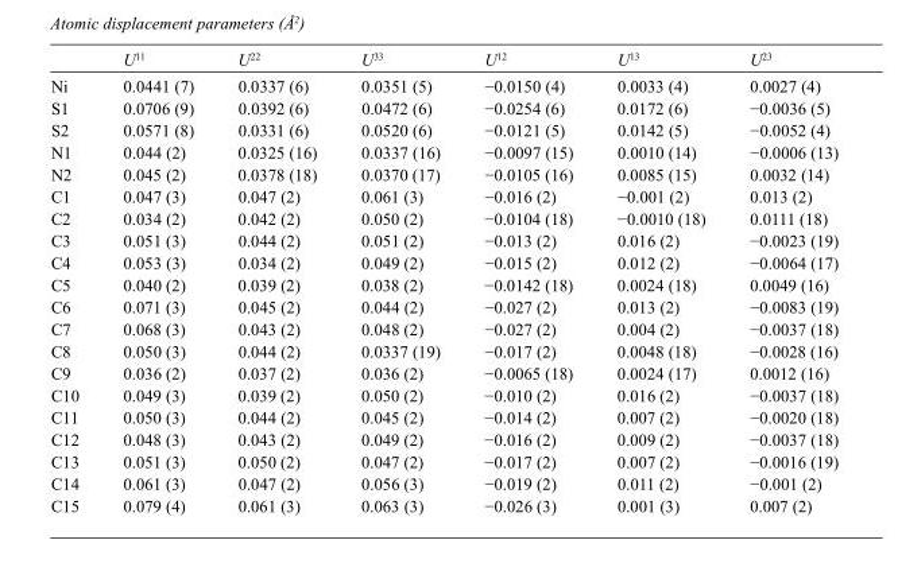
<table><thead><tr><td></td><td>U<sup>11</sup></td><td>U<sup>22</sup></td><td>U<sup>33</sup></td><td>U<sup>12</sup></td><td>U<sup>13</sup></td><td>U<sup>23</sup></td></tr></thead><tbody><tr><td>Ni</td><td>0.0441 (7)</td><td>0.0337 (6)</td><td>0.0351 (5)</td><td>−0.0150 (4)</td><td>0.0033 (4)</td><td>0.0027 (4)</td></tr><tr><td>S1</td><td>0.0706 (9)</td><td>0.0392 (6)</td><td>0.0472 (6)</td><td>−0.0254 (6)</td><td>0.0172 (6)</td><td>−0.0036 (5)</td></tr><tr><td>S2</td><td>0.0571 (8)</td><td>0.0331 (6)</td><td>0.0520 (6)</td><td>−0.0121 (5)</td><td>0.0142 (5)</td><td>−0.0052 (4)</td></tr><tr><td>N1</td><td>0.044 (2)</td><td>0.0325 (16)</td><td>0.0337 (16)</td><td>−0.0097 (15)</td><td>0.0010 (14)</td><td>−0.0006 (13)</td></tr><tr><td>N2</td><td>0.045 (2)</td><td>0.0378 (18)</td><td>0.0370 (17)</td><td>−0.0105 (16)</td><td>0.0085 (15)</td><td>0.0032 (14)</td></tr><tr><td>C1</td><td>0.047 (3)</td><td>0.047 (2)</td><td>0.061 (3)</td><td>−0.016 (2)</td><td>−0.001 (2)</td><td>0.013 (2)</td></tr><tr><td>C2</td><td>0.034 (2)</td><td>0.042 (2)</td><td>0.050 (2)</td><td>−0.0104 (18)</td><td>−0.0010 (18)</td><td>0.0111 (18)</td></tr><tr><td>C3</td><td>0.051 (3)</td><td>0.044 (2)</td><td>0.051 (2)</td><td>−0.013 (2)</td><td>0.016 (2)</td><td>−0.0023 (19)</td></tr><tr><td>C4</td><td>0.053 (3)</td><td>0.034 (2)</td><td>0.049 (2)</td><td>−0.015 (2)</td><td>0.012 (2)</td><td>−0.0064 (17)</td></tr><tr><td>C5</td><td>0.040 (2)</td><td>0.039 (2)</td><td>0.038 (2)</td><td>−0.0142 (18)</td><td>0.0024 (18)</td><td>0.0049 (16)</td></tr><tr><td>C6</td><td>0.071 (3)</td><td>0.045 (2)</td><td>0.044 (2)</td><td>−0.027 (2)</td><td>0.013 (2)</td><td>−0.0083 (19)</td></tr><tr><td>C7</td><td>0.068 (3)</td><td>0.043 (2)</td><td>0.048 (2)</td><td>−0.027 (2)</td><td>0.004 (2)</td><td>−0.0037 (18)</td></tr><tr><td>C8</td><td>0.050 (3)</td><td>0.044 (2)</td><td>0.0337 (19)</td><td>−0.017 (2)</td><td>0.0048 (18)</td><td>−0.0028 (16)</td></tr><tr><td>C9</td><td>0.036 (2)</td><td>0.037 (2)</td><td>0.036 (2)</td><td>−0.0065 (18)</td><td>0.0024 (17)</td><td>0.0012 (16)</td></tr><tr><td>C10</td><td>0.049 (3)</td><td>0.039 (2)</td><td>0.050 (2)</td><td>−0.010 (2)</td><td>0.016 (2)</td><td>−0.0037 (18)</td></tr><tr><td>C11</td><td>0.050 (3)</td><td>0.044 (2)</td><td>0.045 (2)</td><td>−0.014 (2)</td><td>0.007 (2)</td><td>−0.0020 (18)</td></tr><tr><td>C12</td><td>0.048 (3)</td><td>0.043 (2)</td><td>0.049 (2)</td><td>−0.016 (2)</td><td>0.009 (2)</td><td>−0.0037 (18)</td></tr><tr><td>C13</td><td>0.051 (3)</td><td>0.050 (2)</td><td>0.047 (2)</td><td>−0.017 (2)</td><td>0.007 (2)</td><td>−0.0016 (19)</td></tr><tr><td>C14</td><td>0.061 (3)</td><td>0.047 (2)</td><td>0.056 (3)</td><td>−0.019 (2)</td><td>0.011 (2)</td><td>−0.001 (2)</td></tr><tr><td>C15</td><td>0.079 (4)</td><td>0.061 (3)</td><td>0.063 (3)</td><td>−0.026 (3)</td><td>0.001 (3)</td><td>0.007 (2)</td></tr></tbody></table>